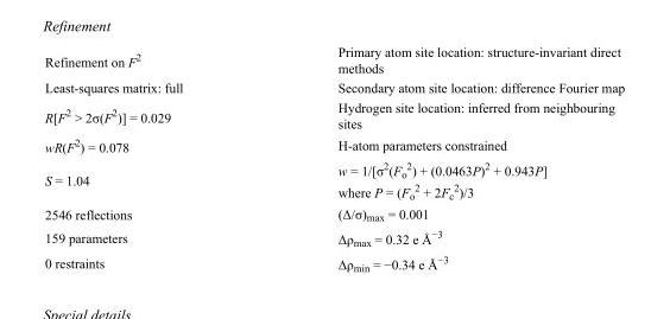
<table><tbody><tr><td>Refinement on F<sup>2</sup></td><td>Primary atom site location: structure-invariant direct methods</td></tr><tr><td>Least-squares matrix: full</td><td>Secondary atom site location: difference Fourier map</td></tr><tr><td>R[F<sup>2</sup> &gt; 2σ(F<sup>2</sup>)] = 0.029</td><td>Hydrogen site location: inferred from neighbouring sites</td></tr><tr><td>wR(F<sup>2</sup>) = 0.078</td><td>H-atom parameters constrained</td></tr><tr><td>S = 1.04</td><td>w = 1/[σ<sup>2</sup>(F<sub>o</sub> <sup>2</sup>) + (0.0463P)<sup>2</sup> + 0.943P] where P = (F<sub>o</sub> <sup>2</sup> + 2F<sub>c</sub> <sup>2</sup>)/3</td></tr><tr><td>2546 reflections</td><td>(Δ/σ)<sub>max</sub> = 0.001</td></tr><tr><td>159 parameters</td><td>Δρ<sub>max</sub> = 0.32 e Å<sup>−3</sup></td></tr><tr><td>0 restraints</td><td>Δρ<sub>min</sub> = −0.34 e Å<sup>−3</sup></td></tr></tbody></table>